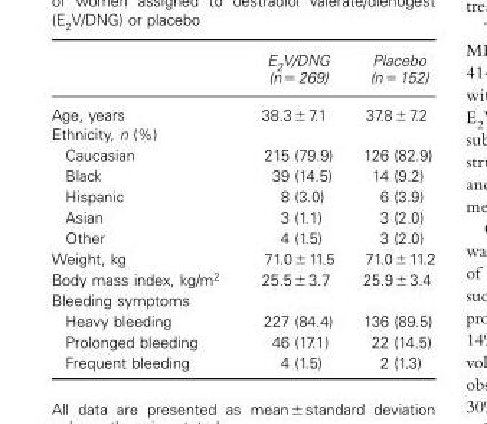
<table><thead><tr><td></td><td>E <sub>2</sub> V/DNG (n = 269)</td><td>Placebo (n = 152)</td></tr></thead><tbody><tr><td>Age, years</td><td>38.3 � 7.1</td><td>37.8 � 7.2</td></tr><tr><td colspan="3">Ethnicity, n (%)</td></tr><tr><td>Caucasian</td><td>215 (79.9)</td><td>126 (82.9)</td></tr><tr><td>Black</td><td>39 (14.5)</td><td>14 (9.2)</td></tr><tr><td>Hispanic</td><td>8 (3.0)</td><td>6 (3.9)</td></tr><tr><td>Asian</td><td>3 (1.1)</td><td>3 (2.0)</td></tr><tr><td>Other</td><td>4 (1.5)</td><td>3 (2.0)</td></tr><tr><td>Weight, kg</td><td>71.0 ± 11.5</td><td>71.0 ± 11.2</td></tr><tr><td>Body mass index, kg/m <sup>2</sup></td><td>25.5 ± 3.7</td><td>25.9 ± 3.4</td></tr><tr><td colspan="3">Bleeding symptoms</td></tr><tr><td>Heavy bleeding</td><td>227 (84.4)</td><td>136 (89.5)</td></tr><tr><td>Prolonged bleeding</td><td>46 (17.1)</td><td>22 (14.5)</td></tr><tr><td>Frequent bleeding</td><td>4 (1.5)</td><td>2 (1.3)</td></tr></tbody></table>